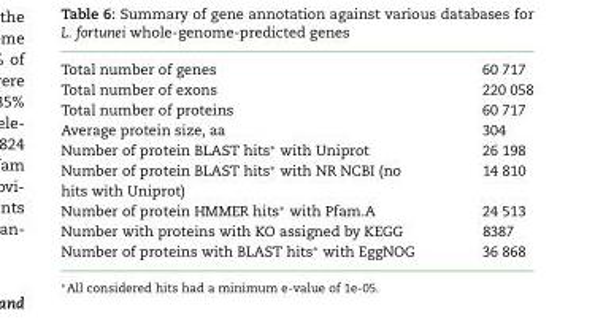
<table><tbody><tr><td>Total number of genes</td><td>60 717</td></tr><tr><td>Total number of exons</td><td>220 058</td></tr><tr><td>Total number of proteins</td><td>60 717</td></tr><tr><td>Average protein size, aa</td><td>304</td></tr><tr><td>Number of protein BLAST hits∗ with Uniprot</td><td>26 198</td></tr><tr><td>Number of protein BLAST hits∗ with NR NCBI (no hits with Uniprot)</td><td>14 810</td></tr><tr><td>Number of protein HMMER hits∗ with Pfam.A</td><td>24 513</td></tr><tr><td>Number with proteins with KO assigned by KEGG</td><td>8387</td></tr><tr><td>Number of proteins with BLAST hits∗ with EggNOG</td><td>36 868</td></tr></tbody></table>